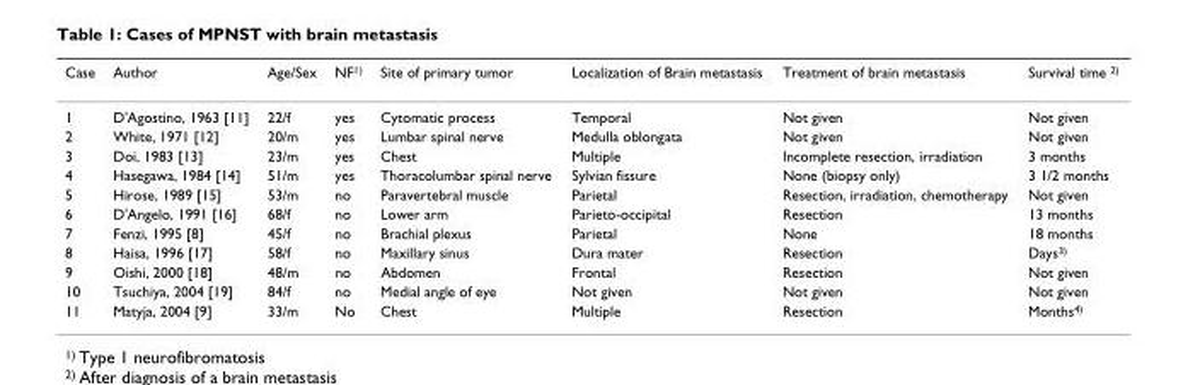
<table><thead><tr><td>Case</td><td>Author</td><td>Age/Sex</td><td>NF1)</td><td>Site of primary tumor</td><td>Localization of Brain metastasis</td><td>Treatment of brain metastasis</td><td>Survival time 2)</td></tr></thead><tbody><tr><td>1</td><td>D&#x27;Agostino, 1963 [11]</td><td>22/f</td><td>yes</td><td>Cytomatic process</td><td>Temporal</td><td>Not given</td><td>Not given</td></tr><tr><td>2</td><td>White, 1971 [12]</td><td>20/m</td><td>yes</td><td>Lumbar spinal nerve</td><td>Medulla oblongata</td><td>Not given</td><td>Not given</td></tr><tr><td>3</td><td>Doi, 1983 [13]</td><td>23/m</td><td>yes</td><td>Chest</td><td>Multiple</td><td>Incomplete resection, irradiation</td><td>3 months</td></tr><tr><td>4</td><td>Hasegawa, 1984 [14]</td><td>51/m</td><td>yes</td><td>Thoracolumbar spinal nerve</td><td>Sylvian fissure</td><td>None (biopsy only)</td><td>3 1/2 months</td></tr><tr><td>5</td><td>Hirose, 1989 [15]</td><td>53/m</td><td>no</td><td>Paravertebral muscle</td><td>Parietal</td><td>Resection, irradiation, chemotherapy</td><td>Not given</td></tr><tr><td>6</td><td>D&#x27;Angelo, 1991 [16]</td><td>68/f</td><td>no</td><td>Lower arm</td><td>Parieto-occipital</td><td>Resection</td><td>13 months</td></tr><tr><td>7</td><td>Fenzi, 1995 [8]</td><td>45/f</td><td>no</td><td>Brachial plexus</td><td>Parietal</td><td>None</td><td>18 months</td></tr><tr><td>8</td><td>Haisa, 1996 [17]</td><td>58/f</td><td>no</td><td>Maxillary sinus</td><td>Dura mater</td><td>Resection</td><td>Days3)</td></tr><tr><td>9</td><td>Oishi, 2000 [18]</td><td>48/m</td><td>no</td><td>Abdomen</td><td>Frontal</td><td>Resection</td><td>Not given</td></tr><tr><td>10</td><td>Tsuchiya, 2004 [19]</td><td>84/f</td><td>no</td><td>Medial angle of eye</td><td>Not given</td><td>Not given</td><td>Not given</td></tr><tr><td>11</td><td>Matyja, 2004 [9]</td><td>33/m</td><td>No</td><td>Chest</td><td>Multiple</td><td>Resection</td><td>Months4)</td></tr></tbody></table>